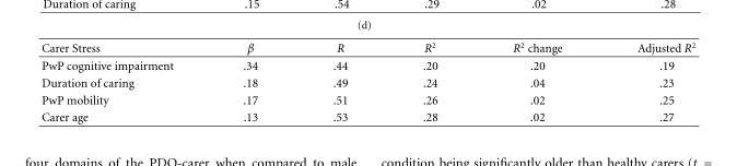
<table><thead><tr><td>Carer Stress</td><td>β</td><td>R</td><td>R<sup>2</sup></td><td>R<sup>2</sup> change</td><td>Adjusted R<sup>2</sup></td></tr></thead><tbody><tr><td>PwP cognitive impairment</td><td>.34</td><td>.44</td><td>.20</td><td>.20</td><td>.19</td></tr><tr><td>Duration of caring</td><td>.18</td><td>.49</td><td>.24</td><td>.04</td><td>.23</td></tr><tr><td>PwP mobility</td><td>.17</td><td>.51</td><td>.26</td><td>.02</td><td>.25</td></tr><tr><td>Carer age</td><td>.13</td><td>.53</td><td>.28</td><td>.02</td><td>.27</td></tr></tbody></table>